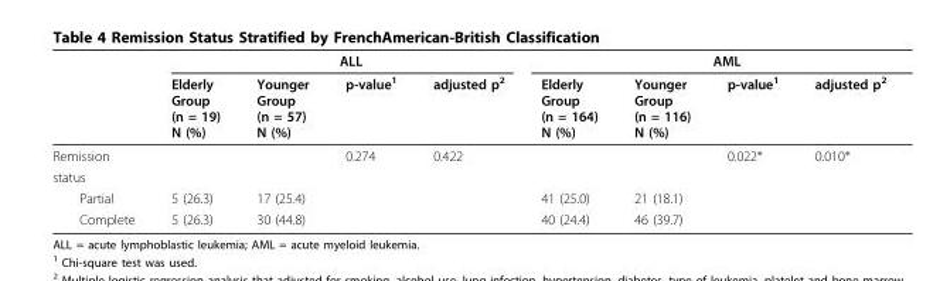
<table><thead><tr><td rowspan="2"></td><td colspan="4">ALL</td><td colspan="4">AML</td></tr><tr><td>Elderly Group (n = 19) N (%)</td><td>Younger Group (n = 57) N (%)</td><td>p-value<sup>1</sup></td><td>adjusted p<sup>2</sup></td><td>Elderly Group (n = 164) N (%)</td><td>Younger Group (n = 116) N (%)</td><td>p-value<sup>1</sup></td><td>adjusted p<sup>2</sup></td></tr></thead><tbody><tr><td>Remission</td><td></td><td></td><td>0.274</td><td>0.422</td><td></td><td></td><td>0.022*</td><td>0.010*</td></tr><tr><td colspan="9">status</td></tr><tr><td>Partial</td><td>5 (26.3)</td><td>17 (25.4)</td><td></td><td></td><td>41 (25.0)</td><td>21 (18.1)</td><td></td><td></td></tr><tr><td>Complete</td><td>5 (26.3)</td><td>30 (44.8)</td><td></td><td></td><td>40 (24.4)</td><td>46 (39.7)</td><td></td><td></td></tr></tbody></table>